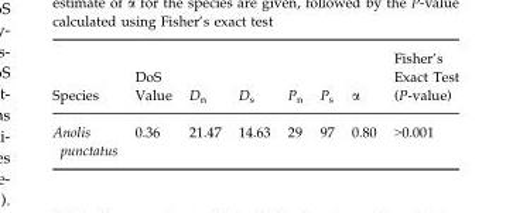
<table><thead><tr><td>Species</td><td>DoS Value</td><td>D<sub>n</sub></td><td>D<sub>s</sub></td><td>P<sub>n</sub></td><td>P<sub>s</sub></td><td>α</td><td>Fisher’s Exact Test (P-value)</td></tr></thead><tbody><tr><td>Anolis punctatus</td><td>0.36</td><td>21.47</td><td>14.63</td><td>29</td><td>97</td><td>0.80</td><td>&gt;0.001</td></tr></tbody></table>